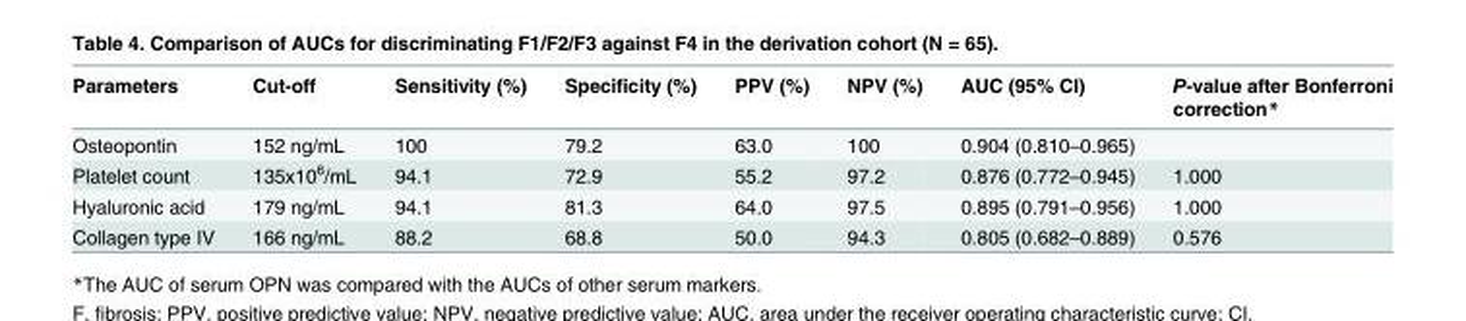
<table><thead><tr><td>Parameters</td><td>Cut-off</td><td>Sensitivity (%)</td><td>Specificity (%)</td><td>PPV (%)</td><td>NPV (%)</td><td>AUC (95% CI)</td><td>P-value after Bonferroni correction*</td></tr></thead><tbody><tr><td>Osteopontin</td><td>152 ng/mL</td><td>100</td><td>79.2</td><td>63.0</td><td>100</td><td>0.904 (0.810–0.965)</td><td></td></tr><tr><td>Platelet count</td><td>135x10<sup>6</sup>/mL</td><td>94.1</td><td>72.9</td><td>55.2</td><td>97.2</td><td>0.876 (0.772–0.945)</td><td>1.000</td></tr><tr><td>Hyaluronic acid</td><td>179 ng/mL</td><td>94.1</td><td>81.3</td><td>64.0</td><td>97.5</td><td>0.895 (0.791–0.956)</td><td>1.000</td></tr><tr><td>Collagen type IV</td><td>166 ng/mL</td><td>88.2</td><td>68.8</td><td>50.0</td><td>94.3</td><td>0.805 (0.682–0.889)</td><td>0.576</td></tr></tbody></table>